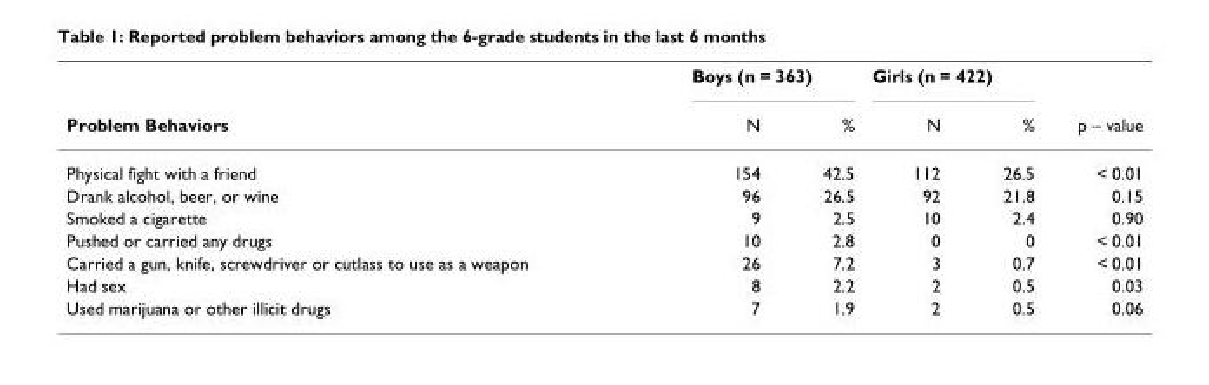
<table><thead><tr><td rowspan="2">Problem Behaviors</td><td colspan="2">Boys (n = 363)</td><td colspan="2">Girls (n = 422)</td><td rowspan="2">p – value</td></tr><tr><td>N</td><td>%</td><td>N</td><td>%</td></tr></thead><tbody><tr><td>Physical fight with a friend</td><td>154</td><td>42.5</td><td>112</td><td>26.5</td><td>&lt; 0.01</td></tr><tr><td>Drank alcohol, beer, or wine</td><td>96</td><td>26.5</td><td>92</td><td>21.8</td><td>0.15</td></tr><tr><td>Smoked a cigarette</td><td>9</td><td>2.5</td><td>10</td><td>2.4</td><td>0.90</td></tr><tr><td>Pushed or carried any drugs</td><td>10</td><td>2.8</td><td>0</td><td>0</td><td>&lt; 0.01</td></tr><tr><td>Carried a gun, knife, screwdriver or cutlass to use as a weapon</td><td>26</td><td>7.2</td><td>3</td><td>0.7</td><td>&lt; 0.01</td></tr><tr><td>Had sex</td><td>8</td><td>2.2</td><td>2</td><td>0.5</td><td>0.03</td></tr><tr><td>Used marijuana or other illicit drugs</td><td>7</td><td>1.9</td><td>2</td><td>0.5</td><td>0.06</td></tr></tbody></table>